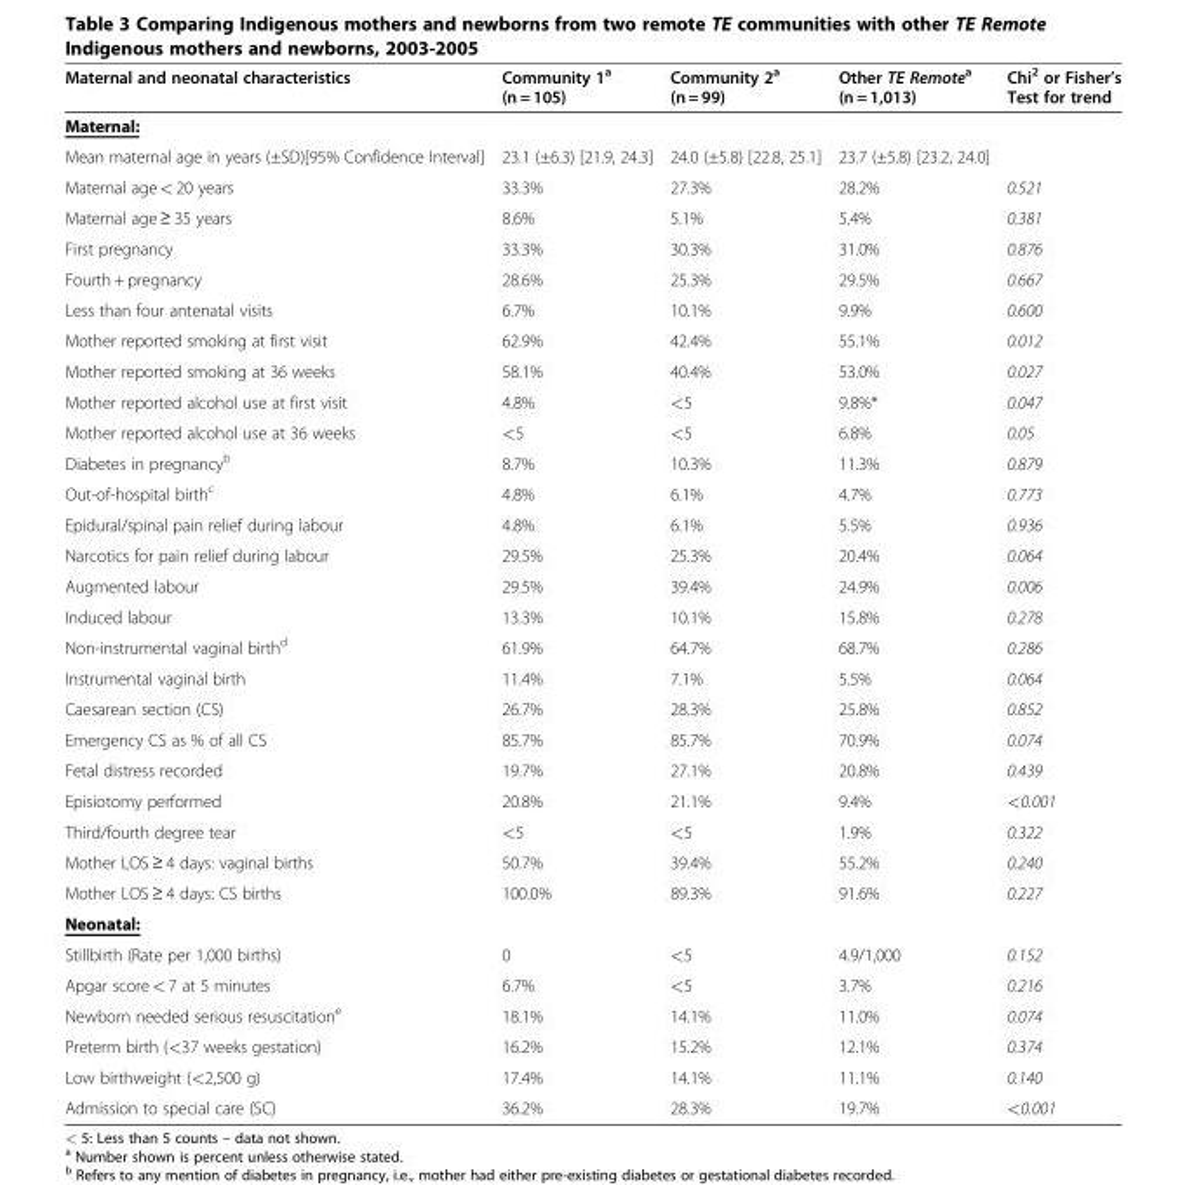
<table><thead><tr><td>Maternal and neonatal characteristics</td><td>Community 1<sup>a</sup> (n = 105)</td><td>Community 2<sup>a</sup> (n = 99)</td><td>Other TE Remote<sup>a</sup> (n = 1,013)</td><td>Chi<sup>2</sup> or Fisher’s Test for trend</td></tr></thead><tbody><tr><td colspan="5">Maternal:</td></tr><tr><td>Mean maternal age in years (±SD)[95% Confidence Interval]</td><td>23.1 (±6.3) [21.9, 24.3]</td><td>24.0 (±5.8) [22.8, 25.1]</td><td>23.7 (±5.8) [23.2, 24.0]</td><td></td></tr><tr><td>Maternal age &lt; 20 years</td><td>33.3%</td><td>27.3%</td><td>28.2%</td><td>0.521</td></tr><tr><td>Maternal age ≥ 35 years</td><td>8.6%</td><td>5.1%</td><td>5.4%</td><td>0.381</td></tr><tr><td>First pregnancy</td><td>33.3%</td><td>30.3%</td><td>31.0%</td><td>0.876</td></tr><tr><td>Fourth + pregnancy</td><td>28.6%</td><td>25.3%</td><td>29.5%</td><td>0.667</td></tr><tr><td>Less than four antenatal visits</td><td>6.7%</td><td>10.1%</td><td>9.9%</td><td>0.600</td></tr><tr><td>Mother reported smoking at first visit</td><td>62.9%</td><td>42.4%</td><td>55.1%</td><td>0.012</td></tr><tr><td>Mother reported smoking at 36 weeks</td><td>58.1%</td><td>40.4%</td><td>53.0%</td><td>0.027</td></tr><tr><td>Mother reported alcohol use at first visit</td><td>4.8%</td><td>&lt;5</td><td>9.8%*</td><td>0.047</td></tr><tr><td>Mother reported alcohol use at 36 weeks</td><td>&lt;5</td><td>&lt;5</td><td>6.8%</td><td>0.05</td></tr><tr><td>Diabetes in pregnancy<sup>b</sup></td><td>8.7%</td><td>10.3%</td><td>11.3%</td><td>0.879</td></tr><tr><td>Out-of-hospital birth<sup>c</sup></td><td>4.8%</td><td>6.1%</td><td>4.7%</td><td>0.773</td></tr><tr><td>Epidural/spinal pain relief during labour</td><td>4.8%</td><td>6.1%</td><td>5.5%</td><td>0.936</td></tr><tr><td>Narcotics for pain relief during labour</td><td>29.5%</td><td>25.3%</td><td>20.4%</td><td>0.064</td></tr><tr><td>Augmented labour</td><td>29.5%</td><td>39.4%</td><td>24.9%</td><td>0.006</td></tr><tr><td>Induced labour</td><td>13.3%</td><td>10.1%</td><td>15.8%</td><td>0.278</td></tr><tr><td>Non-instrumental vaginal birth<sup>d</sup></td><td>61.9%</td><td>64.7%</td><td>68.7%</td><td>0.286</td></tr><tr><td>Instrumental vaginal birth</td><td>11.4%</td><td>7.1%</td><td>5.5%</td><td>0.064</td></tr><tr><td>Caesarean section (CS)</td><td>26.7%</td><td>28.3%</td><td>25.8%</td><td>0.852</td></tr><tr><td>Emergency CS as % of all CS</td><td>85.7%</td><td>85.7%</td><td>70.9%</td><td>0.074</td></tr><tr><td>Fetal distress recorded</td><td>19.7%</td><td>27.1%</td><td>20.8%</td><td>0.439</td></tr><tr><td>Episiotomy performed</td><td>20.8%</td><td>21.1%</td><td>9.4%</td><td>&lt;0.001</td></tr><tr><td>Third/fourth degree tear</td><td>&lt;5</td><td>&lt;5</td><td>1.9%</td><td>0.322</td></tr><tr><td>Mother LOS ≥ 4 days: vaginal births</td><td>50.7%</td><td>39.4%</td><td>55.2%</td><td>0.240</td></tr><tr><td>Mother LOS ≥ 4 days: CS births</td><td>100.0%</td><td>89.3%</td><td>91.6%</td><td>0.227</td></tr><tr><td colspan="5">Neonatal:</td></tr><tr><td>Stillbirth (Rate per 1,000 births)</td><td>0</td><td>&lt;5</td><td>4.9/1,000</td><td>0.152</td></tr><tr><td>Apgar score &lt; 7 at 5 minutes</td><td>6.7%</td><td>&lt;5</td><td>3.7%</td><td>0.216</td></tr><tr><td>Newborn needed serious resuscitation<sup>e</sup></td><td>18.1%</td><td>14.1%</td><td>11.0%</td><td>0.074</td></tr><tr><td>Preterm birth (&lt;37 weeks gestation)</td><td>16.2%</td><td>15.2%</td><td>12.1%</td><td>0.374</td></tr><tr><td>Low birthweight (&lt;2,500 g)</td><td>17.4%</td><td>14.1%</td><td>11.1%</td><td>0.140</td></tr><tr><td>Admission to special care (SC)</td><td>36.2%</td><td>28.3%</td><td>19.7%</td><td>&lt;0.001</td></tr></tbody></table>